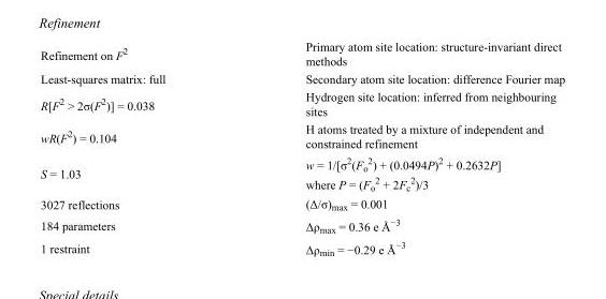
<table><tbody><tr><td>Refinement on F<sup>2</sup></td><td>Primary atom site location: structure-invariant direct methods</td></tr><tr><td>Least-squares matrix: full</td><td>Secondary atom site location: difference Fourier map</td></tr><tr><td>R[F<sup>2</sup> &gt; 2σ(F<sup>2</sup>)] = 0.038</td><td>Hydrogen site location: inferred from neighbouring sites</td></tr><tr><td>wR(F<sup>2</sup>) = 0.104</td><td>H atoms treated by a mixture of independent and constrained refinement</td></tr><tr><td>S = 1.03</td><td>w = 1/[σ<sup>2</sup>(F<sub>o</sub> <sup>2</sup>) + (0.0494P)<sup>2</sup> + 0.2632P] where P = (F<sub>o</sub> <sup>2</sup> + 2F<sub>c</sub> <sup>2</sup>)/3</td></tr><tr><td>3027 reflections</td><td>(Δ/σ)<sub>max</sub> = 0.001</td></tr><tr><td>184 parameters</td><td>Δρ<sub>max</sub> = 0.36 e Å<sup>−3</sup></td></tr><tr><td>1 restraint</td><td>Δρ<sub>min</sub> = −0.29 e Å<sup>−3</sup></td></tr></tbody></table>